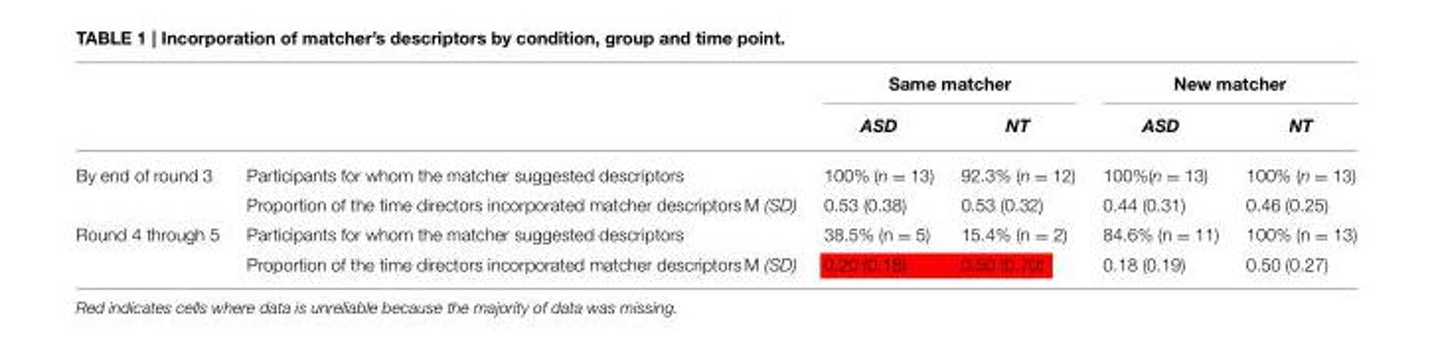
<table><thead><tr><td rowspan="2"></td><td rowspan="2"></td><td colspan="2">Same matcher</td><td colspan="2">New matcher</td></tr><tr><td>ASD</td><td>NT</td><td>ASD</td><td>NT</td></tr></thead><tbody><tr><td rowspan="2">By end of round 3</td><td>Participants for whom the matcher suggested descriptors</td><td>100% (n = 13)</td><td>92.3% (n = 12)</td><td>100%(n = 13)</td><td>100% (n = 13)</td></tr><tr><td>Proportion of the time directors incorporated matcher descriptors M (SD)</td><td>0.53 (0.38)</td><td>0.53 (0.32)</td><td>0.44 (0.31)</td><td>0.46 (0.25)</td></tr><tr><td rowspan="2">Round 4 through 5</td><td>Participants for whom the matcher suggested descriptors</td><td>38.5% (n = 5)</td><td>15.4% (n = 2)</td><td>84.6% (n = 11)</td><td>100% (n = 13)</td></tr><tr><td>Proportion of the time directors incorporated matcher descriptors M (SD)</td><td>0.20 (0.18)</td><td>0.50 (0.70)</td><td>0.18 (0.19)</td><td>0.50 (0.27)</td></tr></tbody></table>